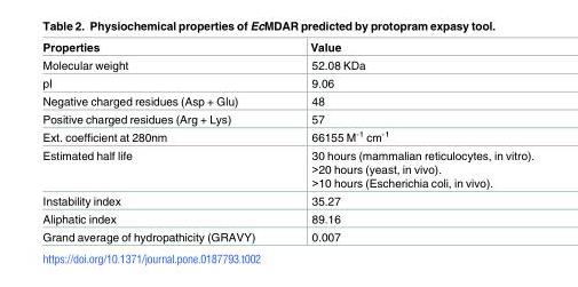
<table><thead><tr><td>Properties</td><td>Value</td></tr></thead><tbody><tr><td>Molecular weight</td><td>52.08 KDa</td></tr><tr><td>pI</td><td>9.06</td></tr><tr><td>Negative charged residues (Asp + Glu)</td><td>48</td></tr><tr><td>Positive charged residues (Arg + Lys)</td><td>57</td></tr><tr><td>Ext. coefficient at 280nm</td><td>66155 M<sup>-1</sup> cm<sup>-1</sup></td></tr><tr><td>Estimated half life</td><td>30 hours (mammalian reticulocytes, in vitro). &gt;20 hours (yeast, in vivo). &gt;10 hours (Escherichia coli, in vivo).</td></tr><tr><td>Instability index</td><td>35.27</td></tr><tr><td>Aliphatic index</td><td>89.16</td></tr><tr><td>Grand average of hydropathicity (GRAVY)</td><td>0.007</td></tr></tbody></table>